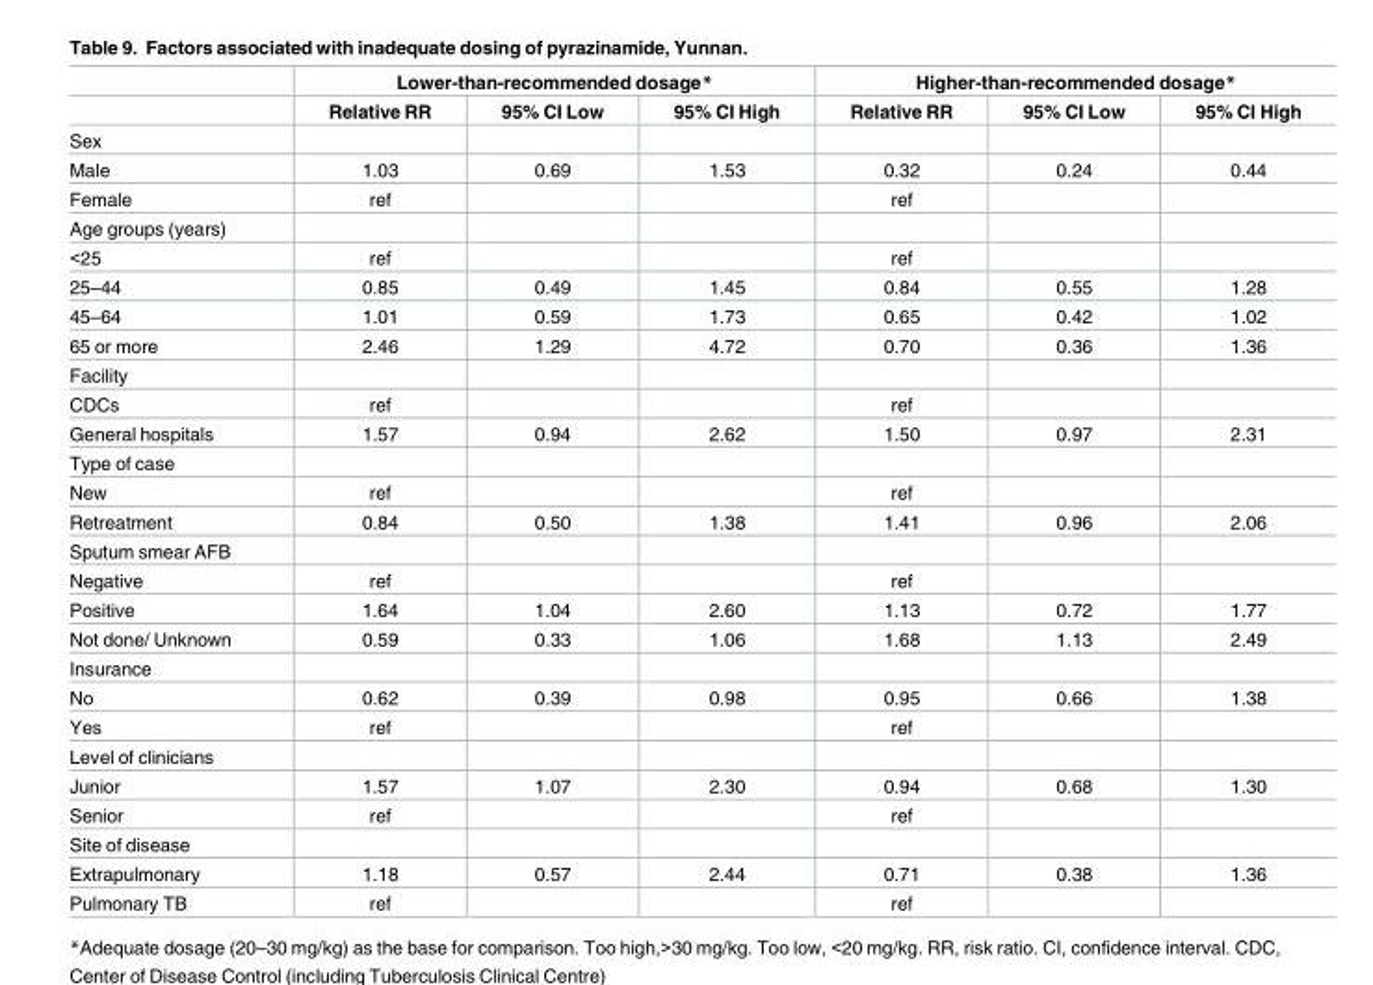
<table><thead><tr><td rowspan="2"></td><td colspan="3">Lower-than-recommended dosage*</td><td colspan="3">Higher-than-recommended dosage*</td></tr><tr><td>Relative RR</td><td>95% CI Low</td><td>95% CI High</td><td>Relative RR</td><td>95% CI Low</td><td>95% CI High</td></tr></thead><tbody><tr><td colspan="7">Sex</td></tr><tr><td>Male</td><td>1.03</td><td>0.69</td><td>1.53</td><td>0.32</td><td>0.24</td><td>0.44</td></tr><tr><td>Female</td><td>ref</td><td></td><td></td><td>ref</td><td></td><td></td></tr><tr><td colspan="7">Age groups (years)</td></tr><tr><td>&lt;25</td><td>ref</td><td></td><td></td><td>ref</td><td></td><td></td></tr><tr><td>25–44</td><td>0.85</td><td>0.49</td><td>1.45</td><td>0.84</td><td>0.55</td><td>1.28</td></tr><tr><td>45–64</td><td>1.01</td><td>0.59</td><td>1.73</td><td>0.65</td><td>0.42</td><td>1.02</td></tr><tr><td>65 or more</td><td>2.46</td><td>1.29</td><td>4.72</td><td>0.70</td><td>0.36</td><td>1.36</td></tr><tr><td colspan="7">Facility</td></tr><tr><td>CDCs</td><td>ref</td><td></td><td></td><td>ref</td><td></td><td></td></tr><tr><td>General hospitals</td><td>1.57</td><td>0.94</td><td>2.62</td><td>1.50</td><td>0.97</td><td>2.31</td></tr><tr><td colspan="7">Type of case</td></tr><tr><td>New</td><td>ref</td><td></td><td></td><td>ref</td><td></td><td></td></tr><tr><td>Retreatment</td><td>0.84</td><td>0.50</td><td>1.38</td><td>1.41</td><td>0.96</td><td>2.06</td></tr><tr><td colspan="7">Sputum smear AFB</td></tr><tr><td>Negative</td><td>ref</td><td></td><td></td><td>ref</td><td></td><td></td></tr><tr><td>Positive</td><td>1.64</td><td>1.04</td><td>2.60</td><td>1.13</td><td>0.72</td><td>1.77</td></tr><tr><td>Not done/ Unknown</td><td>0.59</td><td>0.33</td><td>1.06</td><td>1.68</td><td>1.13</td><td>2.49</td></tr><tr><td colspan="7">Insurance</td></tr><tr><td>No</td><td>0.62</td><td>0.39</td><td>0.98</td><td>0.95</td><td>0.66</td><td>1.38</td></tr><tr><td>Yes</td><td>ref</td><td></td><td></td><td>ref</td><td></td><td></td></tr><tr><td colspan="7">Level of clinicians</td></tr><tr><td>Junior</td><td>1.57</td><td>1.07</td><td>2.30</td><td>0.94</td><td>0.68</td><td>1.30</td></tr><tr><td>Senior</td><td>ref</td><td></td><td></td><td>ref</td><td></td><td></td></tr><tr><td colspan="7">Site of disease</td></tr><tr><td>Extrapulmonary</td><td>1.18</td><td>0.57</td><td>2.44</td><td>0.71</td><td>0.38</td><td>1.36</td></tr><tr><td>Pulmonary TB</td><td>ref</td><td></td><td></td><td>ref</td><td></td><td></td></tr></tbody></table>